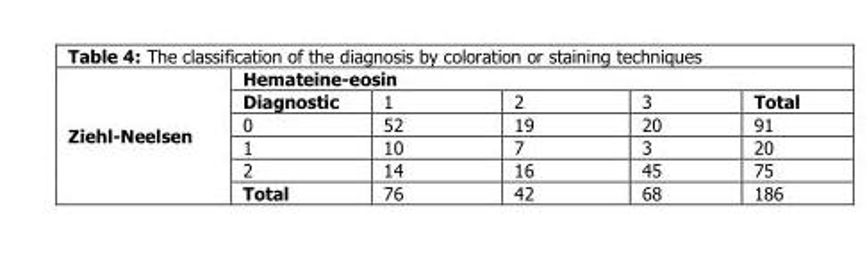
<table><tbody><tr><td rowspan="6">Ziehl-Neelsen</td><td colspan="5">Hemateine-eosin</td></tr><tr><td>Diagnostic</td><td>1</td><td>2</td><td>3</td><td>Total</td></tr><tr><td>0</td><td>52</td><td>19</td><td>20</td><td>91</td></tr><tr><td>1</td><td>10</td><td>7</td><td>3</td><td>20</td></tr><tr><td>2</td><td>14</td><td>16</td><td>45</td><td>75</td></tr><tr><td>Total</td><td>76</td><td>42</td><td>68</td><td>186</td></tr></tbody></table>